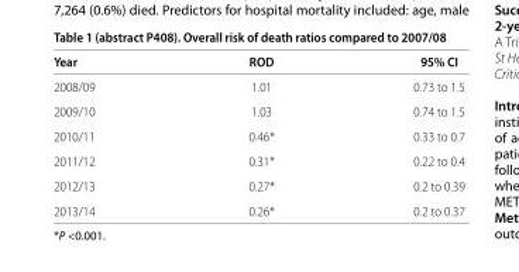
<table><thead><tr><td>Year</td><td>ROD</td><td>95% CI</td></tr></thead><tbody><tr><td>2008/09</td><td>1.01</td><td>0.73 to 1.5</td></tr><tr><td>2009/10</td><td>1.03</td><td>0.74 to 1.5</td></tr><tr><td>2010/11</td><td>0.46*</td><td>0.33 to 0.7</td></tr><tr><td>2011/12</td><td>0.31*</td><td>0.22 to 0.4</td></tr><tr><td>2012/13</td><td>0.27*</td><td>0.2 to 0.39</td></tr><tr><td>2013/14</td><td>0.26*</td><td>0.2 to 0.37</td></tr></tbody></table>